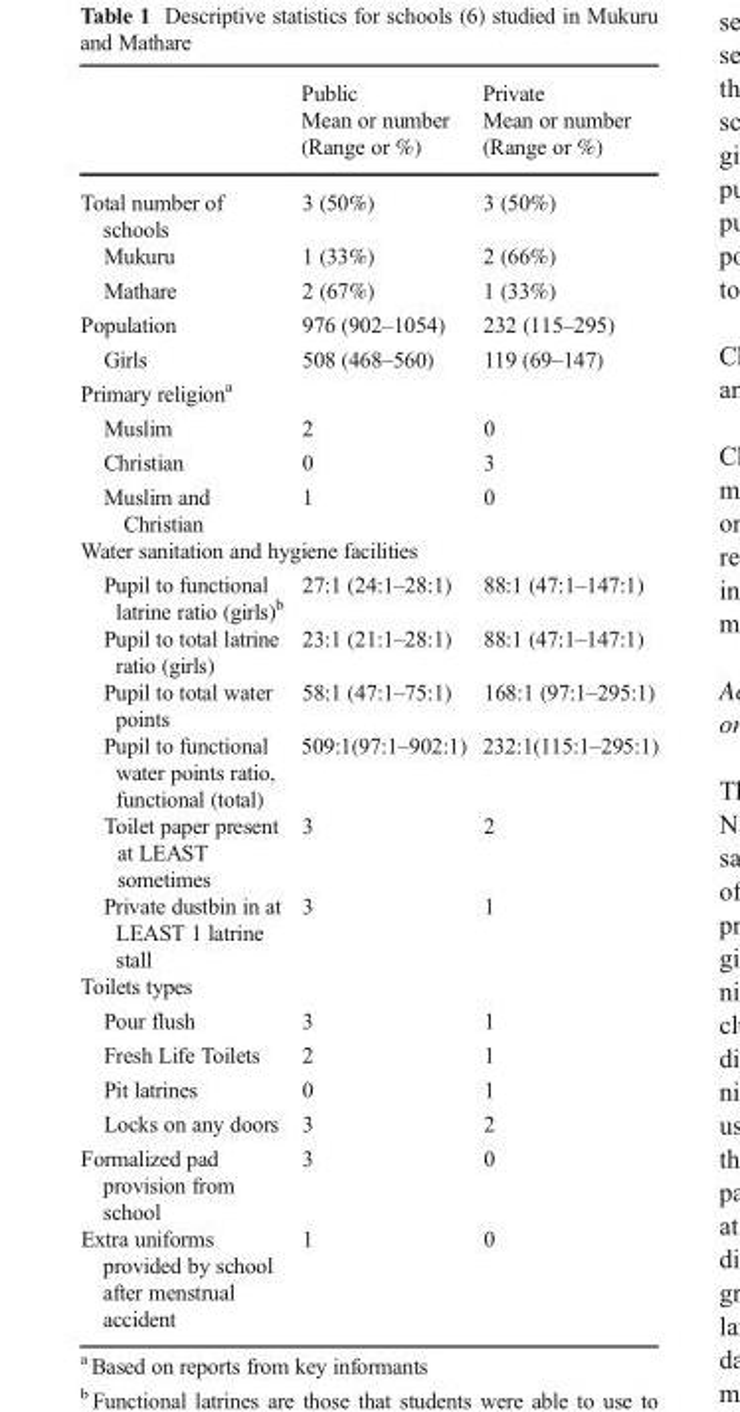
<table><thead><tr><td rowspan="2"></td><td rowspan="2">Public Mean or number (Range or %)</td><td rowspan="2">Private Mean or number (Range or %)</td></tr><tr></tr></thead><tbody><tr><td>Total number of schools</td><td>3 (50%)</td><td>3 (50%)</td></tr><tr><td>Mukuru</td><td>1 (33%)</td><td>2 (66%)</td></tr><tr><td>Mathare</td><td>2 (67%)</td><td>1 (33%)</td></tr><tr><td>Population</td><td>976 (902–1054)</td><td>232 (115–295)</td></tr><tr><td>Girls</td><td>508 (468–560)</td><td>119 (69–147)</td></tr><tr><td colspan="3">Primary religion<sup>a</sup></td></tr><tr><td>Muslim</td><td>2</td><td>0</td></tr><tr><td>Christian</td><td>0</td><td>3</td></tr><tr><td>Muslim and Christian</td><td>1</td><td>0</td></tr><tr><td colspan="3">Water sanitation and hygiene facilities</td></tr><tr><td>Pupil to functional latrine ratio (girls)<sup>b</sup></td><td>27:1 (24:1–28:1)</td><td>88:1 (47:1–147:1)</td></tr><tr><td>Pupil to total latrine ratio (girls)</td><td>23:1 (21:1–28:1)</td><td>88:1 (47:1–147:1)</td></tr><tr><td>Pupil to total water points</td><td>58:1 (47:1–75:1)</td><td>168:1 (97:1–295:1)</td></tr><tr><td>Pupil to functional water points ratio, functional (total)</td><td>509:1(97:1–902:1)</td><td>232:1(115:1–295:1)</td></tr><tr><td>Toilet paper present at LEAST sometimes</td><td>3</td><td>2</td></tr><tr><td>Private dustbin in at LEAST 1 latrine stall</td><td>3</td><td>1</td></tr><tr><td colspan="3">Toilets types</td></tr><tr><td>Pour flush</td><td>3</td><td>1</td></tr><tr><td>Fresh Life Toilets</td><td>2</td><td>1</td></tr><tr><td>Pit latrines</td><td>0</td><td>1</td></tr><tr><td>Locks on any doors</td><td>3</td><td>2</td></tr><tr><td>Formalized pad provision from school</td><td>3</td><td>0</td></tr><tr><td>Extra uniforms provided by school after menstrual accident</td><td>1</td><td>0</td></tr></tbody></table>